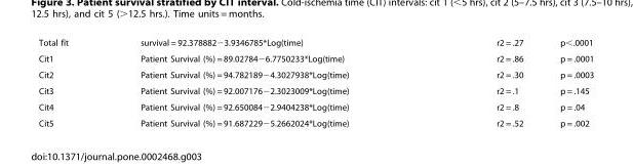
<table><tbody><tr><td>Total fit</td><td>survival = 92.378882−3.9346785*Log(time)</td><td>r2 = .27</td><td>p&lt;.0001</td></tr><tr><td>Cit1</td><td>Patient Survival (%) = 89.02784−6.7750233*Log(time)</td><td>r2 = .86</td><td>p = .0001</td></tr><tr><td>Cit2</td><td>Patient Survival (%) = 94.782189−4.3027938*Log(time)</td><td>r2 = .30</td><td>p = .0003</td></tr><tr><td>Cit3</td><td>Patient Survival (%) = 92.007176−2.3023009*Log(time)</td><td>r2 = .1</td><td>p = .145</td></tr><tr><td>Cit4</td><td>Patient Survival (%) = 92.650084−2.9404238*Log(time)</td><td>r2 = .8</td><td>p = .04</td></tr><tr><td>Cit5</td><td>Patient Survival (%) = 91.687229−5.2662024*Log(time)</td><td>r2 = .52</td><td>p = .002</td></tr></tbody></table>